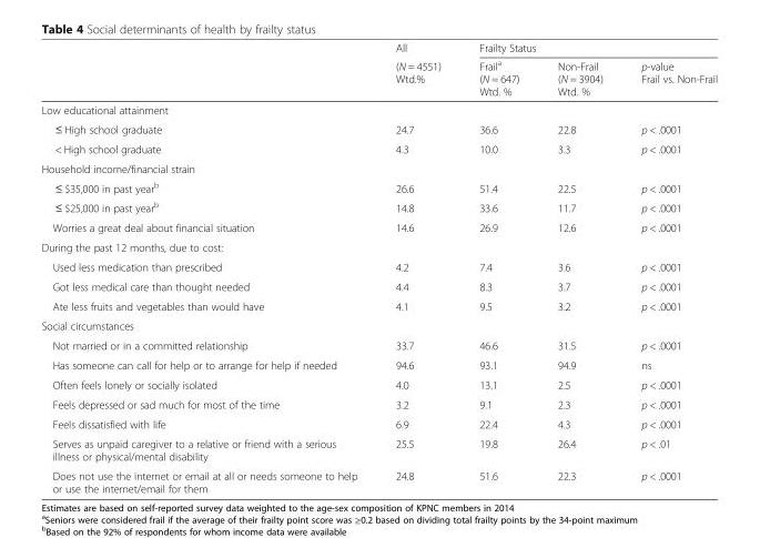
<table><thead><tr><td rowspan="2"></td><td rowspan="2">All (N = 4551) Wtd.%</td><td colspan="3">Frailty Status</td></tr><tr><td>Frail<sup>a</sup> (N = 647) Wtd. %</td><td>Non-Frail (N = 3904) Wtd. %</td><td>p-value Frail vs. Non-Frail</td></tr></thead><tbody><tr><td colspan="5">Low educational attainment</td></tr><tr><td>≤ High school graduate</td><td>24.7</td><td>36.6</td><td>22.8</td><td>p &lt; .0001</td></tr><tr><td>&lt; High school graduate</td><td>4.3</td><td>10.0</td><td>3.3</td><td>p &lt; .0001</td></tr><tr><td colspan="5">Household income/financial strain</td></tr><tr><td>≤ $35,000 in past year<sup>b</sup></td><td>26.6</td><td>51.4</td><td>22.5</td><td>p &lt; .0001</td></tr><tr><td>≤ $25,000 in past year<sup>b</sup></td><td>14.8</td><td>33.6</td><td>11.7</td><td>p &lt; .0001</td></tr><tr><td>Worries a great deal about financial situation</td><td>14.6</td><td>26.9</td><td>12.6</td><td>p &lt; .0001</td></tr><tr><td colspan="5">During the past 12 months, due to cost:</td></tr><tr><td>Used less medication than prescribed</td><td>4.2</td><td>7.4</td><td>3.6</td><td>p &lt; .0001</td></tr><tr><td>Got less medical care than thought needed</td><td>4.4</td><td>8.3</td><td>3.7</td><td>p &lt; .0001</td></tr><tr><td>Ate less fruits and vegetables than would have</td><td>4.1</td><td>9.5</td><td>3.2</td><td>p &lt; .0001</td></tr><tr><td colspan="5">Social circumstances</td></tr><tr><td>Not married or in a committed relationship</td><td>33.7</td><td>46.6</td><td>31.5</td><td>p &lt; .0001</td></tr><tr><td>Has someone can call for help or to arrange for help if needed</td><td>94.6</td><td>93.1</td><td>94.9</td><td>ns</td></tr><tr><td>Often feels lonely or socially isolated</td><td>4.0</td><td>13.1</td><td>2.5</td><td>p &lt; .0001</td></tr><tr><td>Feels depressed or sad much for most of the time</td><td>3.2</td><td>9.1</td><td>2.3</td><td>p &lt; .0001</td></tr><tr><td>Feels dissatisfied with life</td><td>6.9</td><td>22.4</td><td>4.3</td><td>p &lt; .0001</td></tr><tr><td>Serves as unpaid caregiver to a relative or friend with a serious illness or physical/mental disability</td><td>25.5</td><td>19.8</td><td>26.4</td><td>p &lt; .01</td></tr><tr><td>Does not use the internet or email at all or needs someone to help or use the internet/email for them</td><td>24.8</td><td>51.6</td><td>22.3</td><td>p &lt; .0001</td></tr></tbody></table>